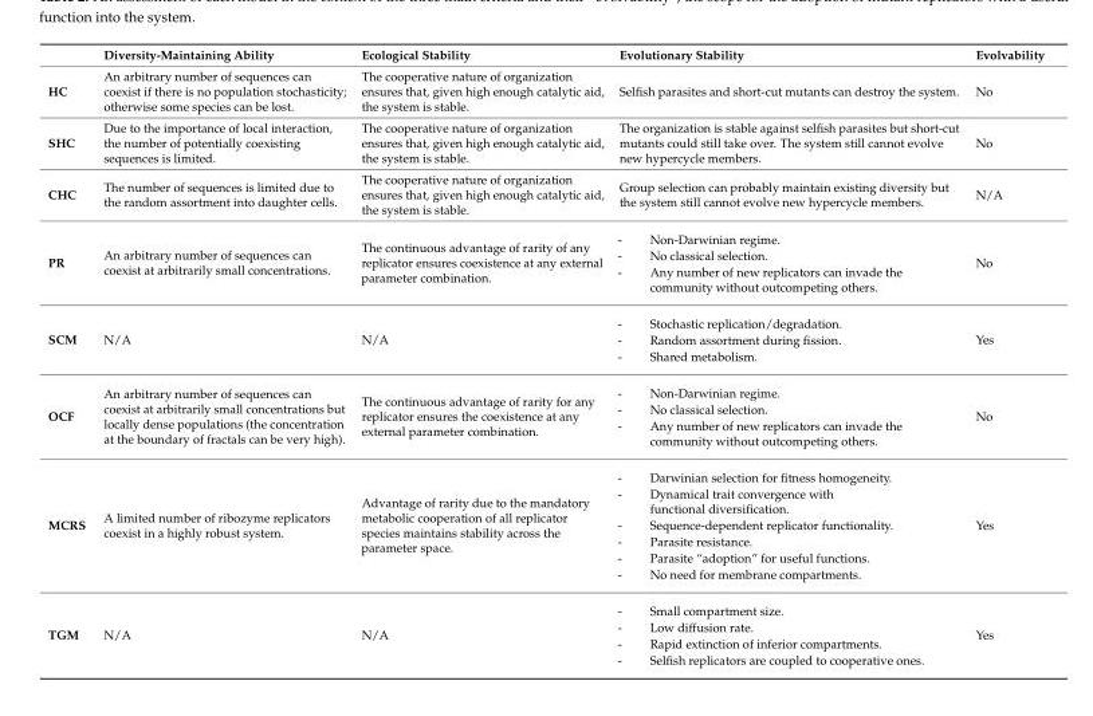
<table><thead><tr><td></td><td>Diversity-Maintaining Ability</td><td>Ecological Stability</td><td>Evolutionary Stability</td><td>Evolvability</td></tr></thead><tbody><tr><td>HC</td><td>An arbitrary number of sequences can coexist if there is no population stochasticity; otherwise some species can be lost.</td><td>The cooperative nature of organization ensures that, given high enough catalytic aid, the system is stable.</td><td>Selfish parasites and short-cut mutants can destroy the system.</td><td>No</td></tr><tr><td>SHC</td><td>Due to the importance of local interaction, the number of potentially coexisting sequences is limited.</td><td>The cooperative nature of organization ensures that, given high enough catalytic aid, the system is stable.</td><td>The organization is stable against selfish parasites but short-cut mutants could still take over. The system still cannot evolve new hypercycle members.</td><td>No</td></tr><tr><td>CHC</td><td>The number of sequences is limited due to the random assortment into daughter cells.</td><td>The cooperative nature of organization ensures that, given high enough catalytic aid, the system is stable.</td><td>Group selection can probably maintain existing diversity but the system still cannot evolve new hypercycle members.</td><td>N/A</td></tr><tr><td>PR</td><td>An arbitrary number of sequences can coexist at arbitrarily small concentrations.</td><td>The continuous advantage of rarity of any replicator ensures coexistence at any external parameter combination.</td><td>- Non-Darwinian regime. - No classical selection. - Any number of new replicators can invade the community without outcompeting others.</td><td>No</td></tr><tr><td>SCM</td><td>N/A</td><td>N/A</td><td>- Stochastic replication/degradation. - Random assortment during fission. - Shared metabolism.</td><td>Yes</td></tr><tr><td>OCF</td><td>An arbitrary number of sequences can coexist at arbitrarily small concentrations but locally dense populations (the concentration at the boundary of fractals can be very high).</td><td>The continuous advantage of rarity for any replicator ensures the coexistence at any external parameter combination.</td><td>- Non-Darwinian regime. - No classical selection. - Any number of new replicators can invade the community without outcompeting others.</td><td>No</td></tr><tr><td>MCRS</td><td>A limited number of ribozyme replicators coexist in a highly robust system.</td><td>Advantage of rarity due to the mandatory metabolic cooperation of all replicator species maintains stability across the parameter space.</td><td>- Darwinian selection for fitness homogeneity. - Dynamical trait convergence with functional diversification. - Sequence-dependent replicator functionality. - Parasite resistance. - Parasite “adoption” for useful functions. - No need for membrane compartments.</td><td>Yes</td></tr><tr><td>TGM</td><td>N/A</td><td>N/A</td><td>- Small compartment size. - Low diffusion rate. - Rapid extinction of inferior compartments. - Selfish replicators are coupled to cooperative ones.</td><td>Yes</td></tr></tbody></table>